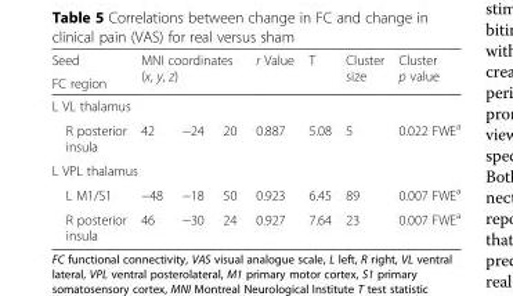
<table><thead><tr><td rowspan="2">Seed FC region</td><td rowspan="2" colspan="3">MNI coordinates (x, y, z)</td><td rowspan="2">r Value</td><td rowspan="2">T</td><td rowspan="2">Cluster size</td><td rowspan="2">Cluster p value</td></tr><tr></tr><tr><td colspan="8">L VL thalamus</td></tr><tr><td>R posterior insula</td><td>42</td><td>−24</td><td>20</td><td>0.887</td><td>5.08</td><td>5</td><td>0.022 FWE<sup>a</sup></td></tr></thead><tbody><tr><td colspan="8">L VPL thalamus</td></tr><tr><td>L M1/S1</td><td>−48</td><td>−18</td><td>50</td><td>0.923</td><td>6.45</td><td>89</td><td>0.007 FWE<sup>a</sup></td></tr><tr><td>R posterior insula</td><td>46</td><td>−30</td><td>24</td><td>0.927</td><td>7.64</td><td>23</td><td>0.007 FWE<sup>a</sup></td></tr></tbody></table>